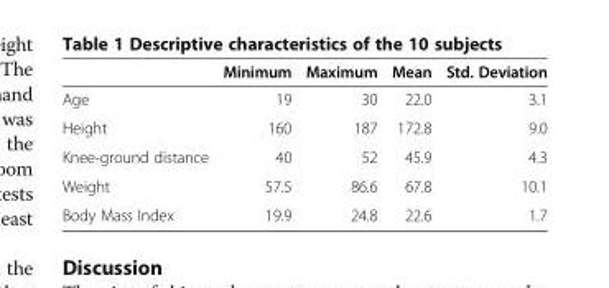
<table><thead><tr><td></td><td>Minimum</td><td>Maximum</td><td>Mean</td><td>Std. Deviation</td></tr></thead><tbody><tr><td>Age</td><td>19</td><td>30</td><td>22.0</td><td>3.1</td></tr><tr><td>Height</td><td>160</td><td>187</td><td>172.8</td><td>9.0</td></tr><tr><td>Knee-ground distance</td><td>40</td><td>52</td><td>45.9</td><td>4.3</td></tr><tr><td>Weight</td><td>57.5</td><td>86.6</td><td>67.8</td><td>10.1</td></tr><tr><td>Body Mass Index</td><td>19.9</td><td>24.8</td><td>22.6</td><td>1.7</td></tr></tbody></table>